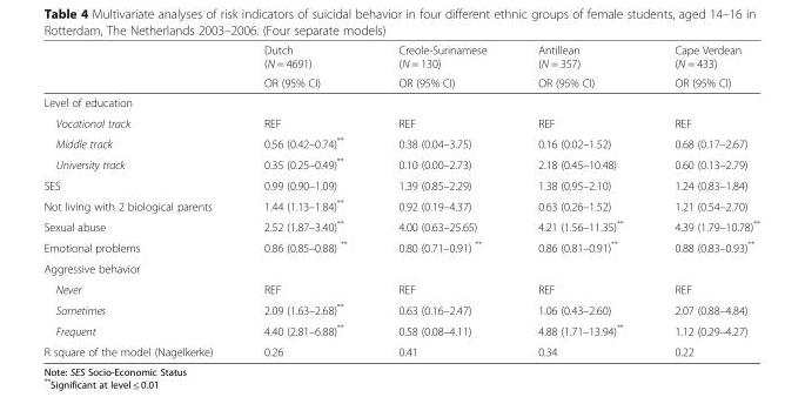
<table><thead><tr><td rowspan="2"></td><td rowspan="2">Dutch (N = 4691) OR (95% CI)</td><td rowspan="2">Creole-Surinamese (N = 130) OR (95% CI)</td><td rowspan="2">Antillean (N = 357) OR (95% CI)</td><td rowspan="2">Cape Verdean (N = 433) OR (95% CI)</td></tr><tr></tr></thead><tbody><tr><td colspan="5">Level of education</td></tr><tr><td>Vocational track</td><td>REF</td><td>REF</td><td>REF</td><td>REF</td></tr><tr><td>Middle track</td><td>0.56 (0.42–0.74)**</td><td>0.38 (0.04–3.75)</td><td>0.16 (0.02–1.52)</td><td>0.68 (0.17–2.67)</td></tr><tr><td>University track</td><td>0.35 (0.25–0.49)**</td><td>0.10 (0.00–2.73)</td><td>2.18 (0.45–10.48)</td><td>0.60 (0.13–2.79)</td></tr><tr><td>SES</td><td>0.99 (0.90–1.09)</td><td>1.39 (0.85–2.29)</td><td>1.38 (0.95–2.10)</td><td>1.24 (0.83–1.84)</td></tr><tr><td>Not living with 2 biological parents</td><td>1.44 (1.13–1.84)**</td><td>0.92 (0.19–4.37)</td><td>0.63 (0.26–1.52)</td><td>1.21 (0.54–2.70)</td></tr><tr><td>Sexual abuse</td><td>2.52 (1.87–3.40)**</td><td>4.00 (0.63–25.65)</td><td>4.21 (1.56–11.35)**</td><td>4.39 (1.79–10.78)**</td></tr><tr><td>Emotional problems</td><td>0.86 (0.85–0.88) **</td><td>0.80 (0.71–0.91) **</td><td>0.86 (0.81–0.91)**</td><td>0.88 (0.83–0.93)**</td></tr><tr><td colspan="5">Aggressive behavior</td></tr><tr><td>Never</td><td>REF</td><td>REF</td><td>REF</td><td>REF</td></tr><tr><td>Sometimes</td><td>2.09 (1.63–2.68)**</td><td>0.63 (0.16–2.47)</td><td>1.06 (0.43–2.60)</td><td>2.07 (0.88–4.84)</td></tr><tr><td>Frequent</td><td>4.40 (2.81–6.88)**</td><td>0.58 (0.08–4.11)</td><td>4.88 (1.71–13.94)**</td><td>1.12 (0.29–4.27)</td></tr><tr><td>R square of the model (Nagelkerke)</td><td>0.26</td><td>0.41</td><td>0.34</td><td>0.22</td></tr></tbody></table>